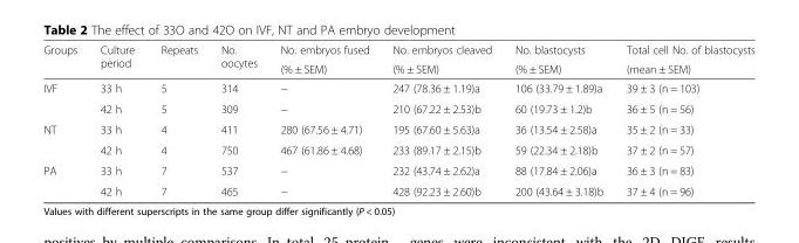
<table><thead><tr><td rowspan="2">Groups</td><td rowspan="2">Culture period</td><td rowspan="2">Repeats</td><td rowspan="2">No. oocytes</td><td rowspan="2">No. embryos fused (% ± SEM)</td><td rowspan="2">No. embryos cleaved (% ± SEM)</td><td rowspan="2">No. blastocysts (% ± SEM)</td><td rowspan="2">Total cell No. of blastocysts (mean ± SEM)</td></tr><tr></tr></thead><tbody><tr><td rowspan="2">IVF</td><td>33 h</td><td>5</td><td>314</td><td>−</td><td>247 (78.36 ± 1.19)a</td><td>106 (33.79 ± 1.89)a</td><td>39 ± 3 (n = 103)</td></tr><tr><td>42 h</td><td>5</td><td>309</td><td>−</td><td>210 (67.22 ± 2.53)b</td><td>60 (19.73 ± 1.2)b</td><td>36 ± 5 (n = 56)</td></tr><tr><td rowspan="2">NT</td><td>33 h</td><td>4</td><td>411</td><td>280 (67.56 ± 4.71)</td><td>195 (67.60 ± 5.63)a</td><td>36 (13.54 ± 2.58)a</td><td>35 ± 2 (n = 33)</td></tr><tr><td>42 h</td><td>4</td><td>750</td><td>467 (61.86 ± 4.68)</td><td>233 (89.17 ± 2.15)b</td><td>59 (22.34 ± 2.18)b</td><td>37 ± 2 (n = 57)</td></tr><tr><td rowspan="2">PA</td><td>33 h</td><td>7</td><td>537</td><td>−</td><td>232 (43.74 ± 2.62)a</td><td>88 (17.84 ± 2.06)a</td><td>36 ± 3 (n = 83)</td></tr><tr><td>42 h</td><td>7</td><td>465</td><td>−</td><td>428 (92.23 ± 2.60)b</td><td>200 (43.64 ± 3.18)b</td><td>37 ± 4 (n = 96)</td></tr></tbody></table>